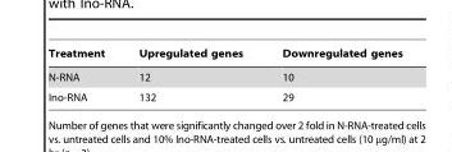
<table><thead><tr><td>Treatment</td><td>Upregulated genes</td><td>Downregulated genes</td></tr></thead><tbody><tr><td>N-RNA</td><td>12</td><td>10</td></tr><tr><td>Ino-RNA</td><td>132</td><td>29</td></tr></tbody></table>